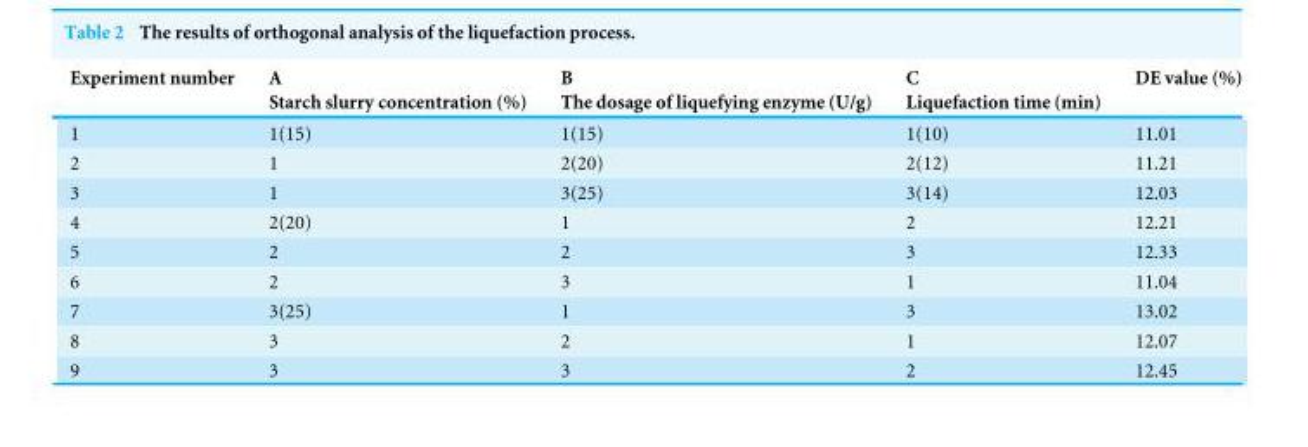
<table><thead><tr><td rowspan="2">Experiment number</td><td rowspan="2">A Starch slurry concentration (%)</td><td rowspan="2">B The dosage of liquefying enzyme (U/g)</td><td rowspan="2">C Liquefaction time (min)</td><td rowspan="2">DE value (%)</td></tr><tr></tr></thead><tbody><tr><td>;1</td><td>1(15)</td><td>1(15)</td><td>1(10)</td><td>11.01</td></tr><tr><td>;2</td><td>1</td><td>2(20)</td><td>2(12)</td><td>11.21</td></tr><tr><td>;3</td><td>1</td><td>3(25)</td><td>3(14)</td><td>12.03</td></tr><tr><td>;4</td><td>2(20)</td><td>1</td><td>2</td><td>12.21</td></tr><tr><td>;5</td><td>2</td><td>2</td><td>3</td><td>12.33</td></tr><tr><td>;6</td><td>2</td><td>3</td><td>1</td><td>11.04</td></tr><tr><td>;7</td><td>3(25)</td><td>1</td><td>3</td><td>13.02</td></tr><tr><td>;8</td><td>3</td><td>2</td><td>1</td><td>12.07</td></tr><tr><td>;9</td><td>3</td><td>3</td><td>2</td><td>12.45</td></tr></tbody></table>